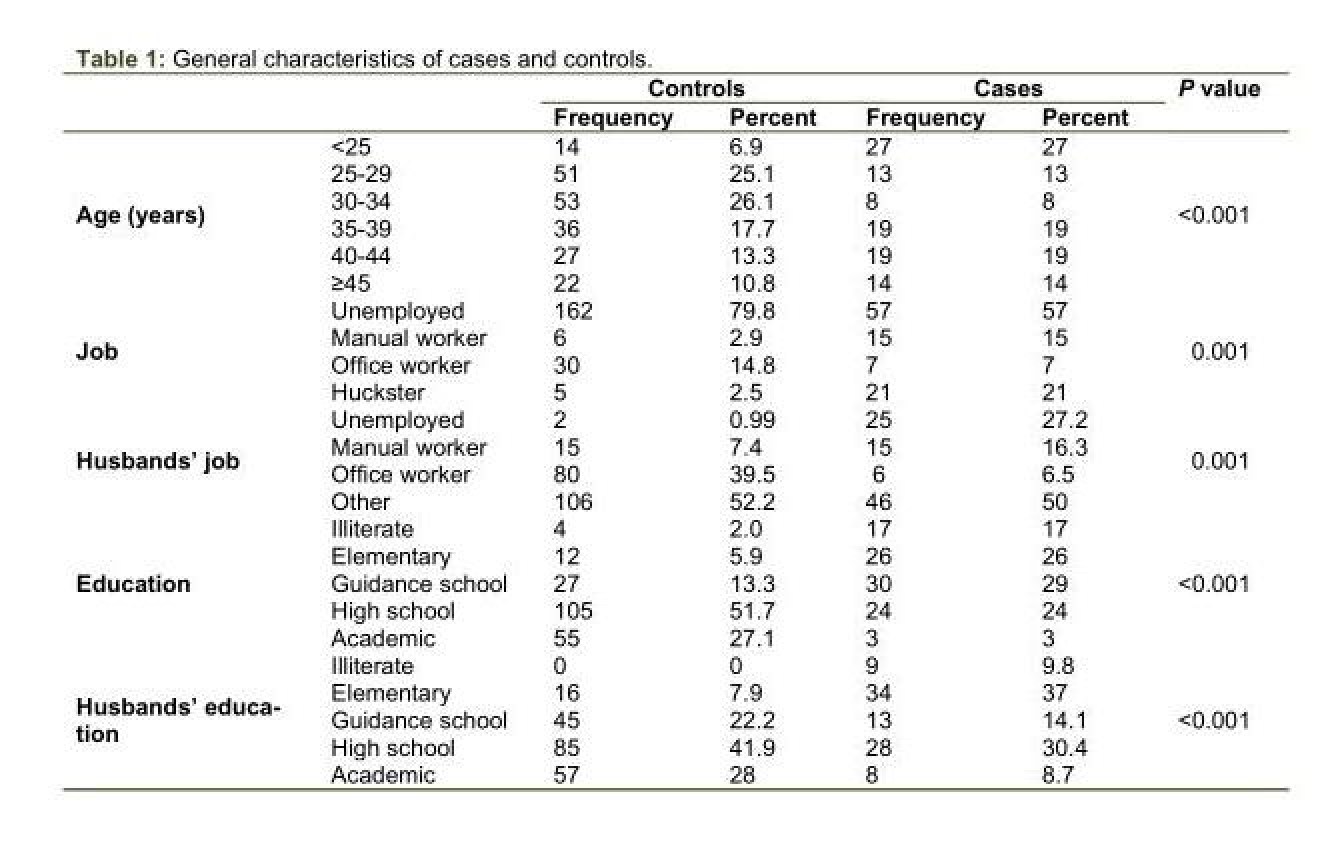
<table><thead><tr><td rowspan="2"></td><td rowspan="2"></td><td colspan="2">Controls</td><td colspan="2">Cases</td><td rowspan="2">P value</td></tr><tr><td>Frequency</td><td>Percent</td><td>Frequency</td><td>Percent</td></tr></thead><tbody><tr><td rowspan="6">Age (years)</td><td>&lt;25</td><td>14</td><td>6.9</td><td>27</td><td>27</td><td rowspan="6">&lt;0.001</td></tr><tr><td>25-29</td><td>51</td><td>25.1</td><td>13</td><td>13</td></tr><tr><td>30-34</td><td>53</td><td>26.1</td><td>8</td><td>8</td></tr><tr><td>35-39</td><td>36</td><td>17.7</td><td>19</td><td>19</td></tr><tr><td>40-44</td><td>27</td><td>13.3</td><td>19</td><td>19</td></tr><tr><td>≥45</td><td>22</td><td>10.8</td><td>14</td><td>14</td></tr><tr><td rowspan="4">Job</td><td>Unemployed</td><td>162</td><td>79.8</td><td>57</td><td>57</td><td rowspan="4">0.001</td></tr><tr><td>Manual worker</td><td>6</td><td>2.9</td><td>15</td><td>15</td></tr><tr><td>Office worker</td><td>30</td><td>14.8</td><td>7</td><td>7</td></tr><tr><td>Huckster</td><td>5</td><td>2.5</td><td>21</td><td>21</td></tr><tr><td rowspan="4">Husbands’ job</td><td>Unemployed</td><td>2</td><td>0.99</td><td>25</td><td>27.2</td><td rowspan="4">0.001</td></tr><tr><td>Manual worker</td><td>15</td><td>7.4</td><td>15</td><td>16.3</td></tr><tr><td>Office worker</td><td>80</td><td>39.5</td><td>6</td><td>6.5</td></tr><tr><td>Other</td><td>106</td><td>52.2</td><td>46</td><td>50</td></tr><tr><td rowspan="5">Education</td><td>Illiterate</td><td>4</td><td>2.0</td><td>17</td><td>17</td><td rowspan="5">&lt;0.001</td></tr><tr><td>Elementary</td><td>12</td><td>5.9</td><td>26</td><td>26</td></tr><tr><td>Guidance school</td><td>27</td><td>13.3</td><td>30</td><td>29</td></tr><tr><td>High school</td><td>105</td><td>51.7</td><td>24</td><td>24</td></tr><tr><td>Academic</td><td>55</td><td>27.1</td><td>3</td><td>3</td></tr><tr><td rowspan="5">Husbands’ educa- tion</td><td>Illiterate</td><td>0</td><td>0</td><td>9</td><td>9.8</td><td rowspan="5">&lt;0.001</td></tr><tr><td>Elementary</td><td>16</td><td>7.9</td><td>34</td><td>37</td></tr><tr><td>Guidance school</td><td>45</td><td>22.2</td><td>13</td><td>14.1</td></tr><tr><td>High school</td><td>85</td><td>41.9</td><td>28</td><td>30.4</td></tr><tr><td>Academic</td><td>57</td><td>28</td><td>8</td><td>8.7</td></tr></tbody></table>